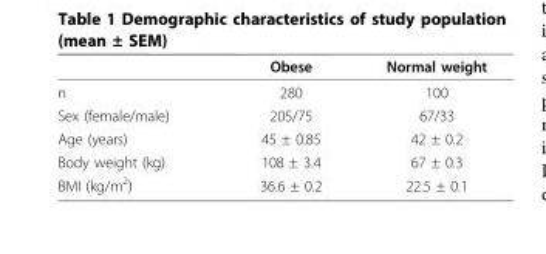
<table><thead><tr><td></td><td>Obese</td><td>Normal weight</td></tr></thead><tbody><tr><td>n</td><td>280</td><td>100</td></tr><tr><td>Sex (female/male)</td><td>205/75</td><td>67/33</td></tr><tr><td>Age (years)</td><td>45 ± 0.85</td><td>42 ± 0.2</td></tr><tr><td>Body weight (kg)</td><td>108 ± 3.4</td><td>67 ± 0.3</td></tr><tr><td>BMI (kg/m<sup>2</sup>)</td><td>36.6 ± 0.2</td><td>22.5 ± 0.1</td></tr></tbody></table>